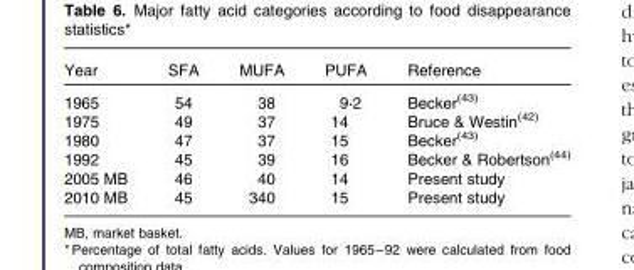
<table><thead><tr><td>Year</td><td>SFA</td><td>MUFA</td><td>PUFA</td><td>Reference</td></tr></thead><tbody><tr><td>1965</td><td>54</td><td>38</td><td>9·2</td><td>Becker<sup>(43)</sup></td></tr><tr><td>1975</td><td>49</td><td>37</td><td>14</td><td>Bruce &amp; Westin<sup>(42)</sup></td></tr><tr><td>1980</td><td>47</td><td>37</td><td>15</td><td>Becker<sup>(43)</sup></td></tr><tr><td>1992</td><td>45</td><td>39</td><td>16</td><td>Becker &amp; Robertson<sup>(44)</sup></td></tr><tr><td>2005 MB</td><td>46</td><td>40</td><td>14</td><td>Present study</td></tr><tr><td>2010 MB</td><td>45</td><td>340</td><td>15</td><td>Present study</td></tr></tbody></table>